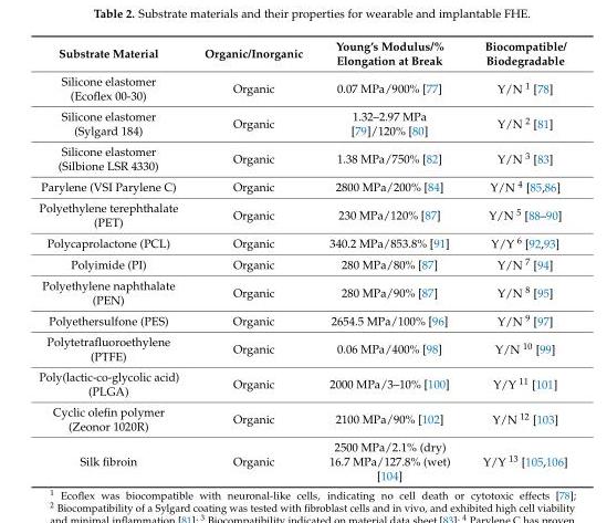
<table><thead><tr><td>Substrate Material</td><td>Organic/Inorganic</td><td>Young’s Modulus/% Elongation at Break</td><td>Biocompatible/ Biodegradable</td></tr></thead><tbody><tr><td>Silicone elastomer (Ecoflex 00-30)</td><td>Organic</td><td>0.07 MPa/900% [77]</td><td>Y/N <sup>1</sup> [78]</td></tr><tr><td>Silicone elastomer (Sylgard 184)</td><td>Organic</td><td>1.32–2.97 MPa [79]/120% [80]</td><td>Y/N <sup>2</sup> [81]</td></tr><tr><td>Silicone elastomer (Silbione LSR 4330)</td><td>Organic</td><td>1.38 MPa/750% [82]</td><td>Y/N <sup>3</sup> [83]</td></tr><tr><td>Parylene (VSI Parylene C)</td><td>Organic</td><td>2800 MPa/200% [84]</td><td>Y/N <sup>4</sup> [85,86]</td></tr><tr><td>Polyethylene terephthalate (PET)</td><td>Organic</td><td>230 MPa/120% [87]</td><td>Y/N 5 [88–90]</td></tr><tr><td>Polycaprolactone (PCL)</td><td>Organic</td><td>340.2 MPa/853.8% [91]</td><td>Y/Y <sup>6</sup> [92,93]</td></tr><tr><td>Polyimide (PI)</td><td>Organic</td><td>280 MPa/80% [87]</td><td>Y/N <sup>7</sup> [94]</td></tr><tr><td>Polyethylene naphthalate (PEN)</td><td>Organic</td><td>280 MPa/90% [87]</td><td>Y/N <sup>8</sup> [95]</td></tr><tr><td>Polyethersulfone (PES)</td><td>Organic</td><td>2654.5 MPa/100% [96]</td><td>Y/N <sup>9</sup> [97]</td></tr><tr><td>Polytetrafluoroethylene (PTFE)</td><td>Organic</td><td>0.06 MPa/400% [98]</td><td>Y/N <sup>10</sup> [99]</td></tr><tr><td>Poly(lactic-co-glycolic acid) (PLGA)</td><td>Organic</td><td>2000 MPa/3–10% [100]</td><td>Y/Y <sup>11</sup> [101]</td></tr><tr><td>Cyclic olefin polymer (Zeonor 1020R)</td><td>Organic</td><td>2100 MPa/90% [102]</td><td>Y/N <sup>12</sup> [103]</td></tr><tr><td>Silk fibroin</td><td>Organic</td><td>2500 MPa/2.1% (dry) 16.7 MPa/127.8% (wet) [104]</td><td>Y/Y <sup>13</sup> [105,106]</td></tr></tbody></table>